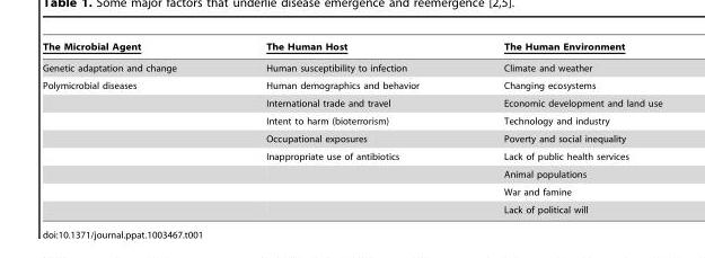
<table><thead><tr><td>The Microbial Agent</td><td>The Human Host</td><td>The Human Environment</td></tr></thead><tbody><tr><td>Genetic adaptation and change</td><td>Human susceptibility to infection</td><td>Climate and weather</td></tr><tr><td rowspan="8">Polymicrobial diseases</td><td>Human demographics and behavior</td><td>Changing ecosystems</td></tr><tr><td>International trade and travel</td><td>Economic development and land use</td></tr><tr><td>Intent to harm (bioterrorism)</td><td>Technology and industry</td></tr><tr><td>Occupational exposures</td><td>Poverty and social inequality</td></tr><tr><td>Inappropriate use of antibiotics</td><td>Lack of public health services</td></tr><tr><td></td><td>Animal populations</td></tr><tr><td></td><td>War and famine</td></tr><tr><td></td><td>Lack of political will</td></tr></tbody></table>